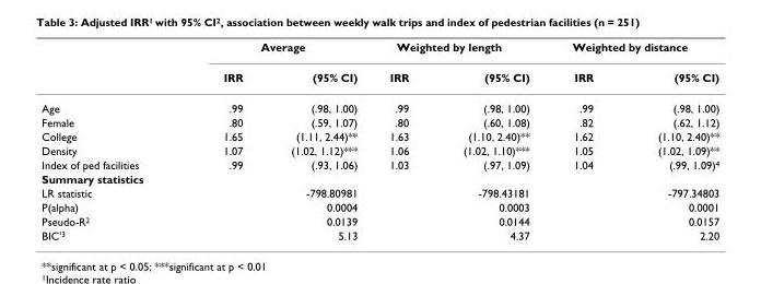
<table><thead><tr><td rowspan="2"></td><td colspan="2">Average</td><td colspan="2">Weighted by length</td><td colspan="2">Weighted by distance</td></tr><tr><td>IRR</td><td>(95% CI)</td><td>IRR</td><td>(95% CI)</td><td>IRR</td><td>(95% CI)</td></tr></thead><tbody><tr><td>Age</td><td>.99</td><td>(.98, 1.00)</td><td>.99</td><td>(.98, 1.00)</td><td>.99</td><td>(.98, 1.00)</td></tr><tr><td>Female</td><td>.80</td><td>(.59, 1.07)</td><td>.80</td><td>(.60, 1.08)</td><td>.82</td><td>(.62, 1.12)</td></tr><tr><td>College</td><td>1.65</td><td>(1.11, 2.44)**</td><td>1.63</td><td>(1.10, 2.40)**</td><td>1.62</td><td>(1.10, 2.40)**</td></tr><tr><td>Density</td><td>1.07</td><td>(1.02, 1.12)***</td><td>1.06</td><td>(1.02, 1.10)***</td><td>1.05</td><td>(1.02, 1.09)**</td></tr><tr><td>Index of ped facilities</td><td>.99</td><td>(.93, 1.06)</td><td>1.03</td><td>(.97, 1.09)</td><td>1.04</td><td>(.99, 1.09)<sup>4</sup></td></tr><tr><td colspan="7">Summary statistics</td></tr><tr><td>LR statistic</td><td></td><td>-798.80981</td><td></td><td>-798.43181</td><td></td><td>-797.34803</td></tr><tr><td>P(alpha)</td><td></td><td>0.0004</td><td></td><td>0.0003</td><td></td><td>0.0001</td></tr><tr><td>Pseudo-R<sup>2</sup></td><td></td><td>0.0139</td><td></td><td>0.0144</td><td></td><td>0.0157</td></tr><tr><td>BIC&#x27;<sup>3</sup></td><td></td><td>5.13</td><td></td><td>4.37</td><td></td><td>2.20</td></tr></tbody></table>